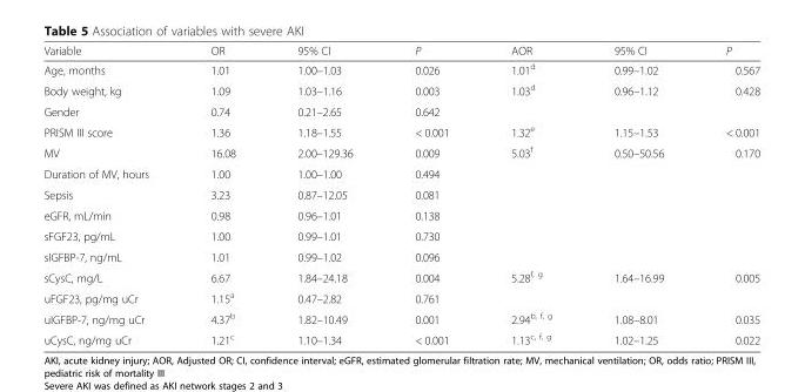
<table><thead><tr><td>Variable</td><td>OR</td><td>95% CI</td><td>P</td><td>AOR</td><td>95% CI</td><td>P</td></tr></thead><tbody><tr><td>Age, months</td><td>1.01</td><td>1.00–1.03</td><td>0.026</td><td>1.01<sup>d</sup></td><td>0.99–1.02</td><td>0.567</td></tr><tr><td>Body weight, kg</td><td>1.09</td><td>1.03–1.16</td><td>0.003</td><td>1.03<sup>d</sup></td><td>0.96–1.12</td><td>0.428</td></tr><tr><td>Gender</td><td>0.74</td><td>0.21–2.65</td><td>0.642</td><td></td><td></td><td></td></tr><tr><td>PRISM III score</td><td>1.36</td><td>1.18–1.55</td><td>&lt; 0.001</td><td>1.32<sup>e</sup></td><td>1.15–1.53</td><td>&lt; 0.001</td></tr><tr><td>MV</td><td>16.08</td><td>2.00–129.36</td><td>0.009</td><td>5.03<sup>f</sup></td><td>0.50–50.56</td><td>0.170</td></tr><tr><td>Duration of MV, hours</td><td>1.00</td><td>1.00–1.00</td><td>0.494</td><td></td><td></td><td></td></tr><tr><td>Sepsis</td><td>3.23</td><td>0.87–12.05</td><td>0.081</td><td></td><td></td><td></td></tr><tr><td>eGFR, mL/min</td><td>0.98</td><td>0.96–1.01</td><td>0.138</td><td></td><td></td><td></td></tr><tr><td>sFGF23, pg/mL</td><td>1.00</td><td>0.99–1.01</td><td>0.730</td><td></td><td></td><td></td></tr><tr><td>sIGFBP-7, ng/mL</td><td>1.01</td><td>0.99–1.02</td><td>0.096</td><td></td><td></td><td></td></tr><tr><td>sCysC, mg/L</td><td>6.67</td><td>1.84–24.18</td><td>0.004</td><td>5.28<sup>f, g</sup></td><td>1.64–16.99</td><td>0.005</td></tr><tr><td>uFGF23, pg/mg uCr</td><td>1.15<sup>a</sup></td><td>0.47–2.82</td><td>0.761</td><td></td><td></td><td></td></tr><tr><td>uIGFBP-7, ng/mg uCr</td><td>4.37<sup>b</sup></td><td>1.82–10.49</td><td>0.001</td><td>2.94<sup>b, f, g</sup></td><td>1.08–8.01</td><td>0.035</td></tr><tr><td>uCysC, ng/mg uCr</td><td>1.21<sup>c</sup></td><td>1.10–1.34</td><td>&lt; 0.001</td><td>1.13<sup>c, f, g</sup></td><td>1.02–1.25</td><td>0.022</td></tr></tbody></table>